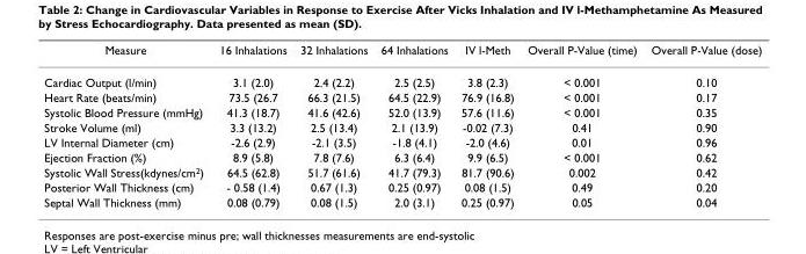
<table><thead><tr><td>Measure</td><td>16 Inhalations</td><td>32 Inhalations</td><td>64 Inhalations</td><td>IV l-Meth</td><td>Overall P-Value (time)</td><td>Overall P-Value (dose)</td></tr></thead><tbody><tr><td>Cardiac Output (l/min)</td><td>3.1 (2.0)</td><td>2.4 (2.2)</td><td>2.5 (2.5)</td><td>3.8 (2.3)</td><td>&lt; 0.001</td><td>0.10</td></tr><tr><td>Heart Rate (beats/min)</td><td>73.5 (26.7</td><td>66.3 (21.5)</td><td>64.5 (22.9)</td><td>76.9 (16.8)</td><td>&lt; 0.001</td><td>0.17</td></tr><tr><td>Systolic Blood Pressure (mmHg)</td><td>41.3 (18.7)</td><td>41.6 (42.6)</td><td>52.0 (13.9)</td><td>57.6 (11.6)</td><td>&lt; 0.001</td><td>0.35</td></tr><tr><td>Stroke Volume (ml)</td><td>3.3 (13.2)</td><td>2.5 (13.4)</td><td>2.1 (13.9)</td><td>-0.02 (7.3)</td><td>0.41</td><td>0.90</td></tr><tr><td>LV Internal Diameter (cm)</td><td>-2.6 (2.9)</td><td>-2.1 (3.5)</td><td>-1.8 (4.1)</td><td>-2.0 (4.6)</td><td>0.01</td><td>0.96</td></tr><tr><td>Ejection Fraction (%)</td><td>8.9 (5.8)</td><td>7.8 (7.6)</td><td>6.3 (6.4)</td><td>9.9 (6.5)</td><td>&lt; 0.001</td><td>0.62</td></tr><tr><td>Systolic Wall Stress(kdynes/cm<sup>2</sup>)</td><td>64.5 (62.8)</td><td>51.7 (61.6)</td><td>41.7 (79.3)</td><td>81.7 (90.6)</td><td>0.002</td><td>0.42</td></tr><tr><td>Posterior Wall Thickness (cm)</td><td>- 0.58 (1.4)</td><td>0.67 (1.3)</td><td>0.25 (0.97)</td><td>0.08 (1.5)</td><td>0.49</td><td>0.20</td></tr><tr><td>Septal Wall Thickness (mm)</td><td>0.08 (0.79)</td><td>0.08 (1.5)</td><td>2.0 (3.1)</td><td>0.25 (0.97)</td><td>0.05</td><td>0.04</td></tr></tbody></table>